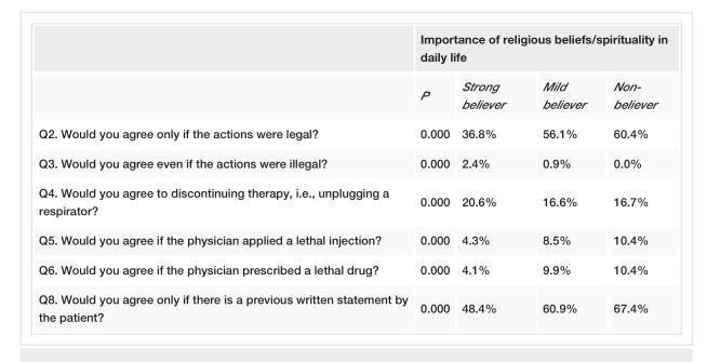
<table><thead><tr><td rowspan="2"></td><td colspan="4">Importance of religious beliefs/spirituality in daily life</td></tr><tr><td>P</td><td>Strong believer</td><td>Mild believer</td><td>Non- believer</td></tr></thead><tbody><tr><td>Q2. Would you agree only if the actions were legal?</td><td>0.000</td><td>36.8%</td><td>56.1%</td><td>60.4%</td></tr><tr><td>Q3. Would you agree even if the actions were illegal?</td><td>0.000</td><td>2.4%</td><td>0.9%</td><td>0.0%</td></tr><tr><td>Q4. Would you agree to discontinuing therapy, i.e., unplugging a respirator?</td><td>0.000</td><td>20.6%</td><td>16.6%</td><td>16.7%</td></tr><tr><td>Q5. Would you agree if the physician applied a lethal injection?</td><td>0.000</td><td>4.3%</td><td>8.5%</td><td>10.4%</td></tr><tr><td>Q6. Would you agree if the physician prescribed a lethal drug?</td><td>0.000</td><td>4.1%</td><td>9.9%</td><td>10.4%</td></tr><tr><td>Q8. Would you agree only if there is a previous written statement by the patient?</td><td>0.000</td><td>48.4%</td><td>60.9%</td><td>67.4%</td></tr></tbody></table>